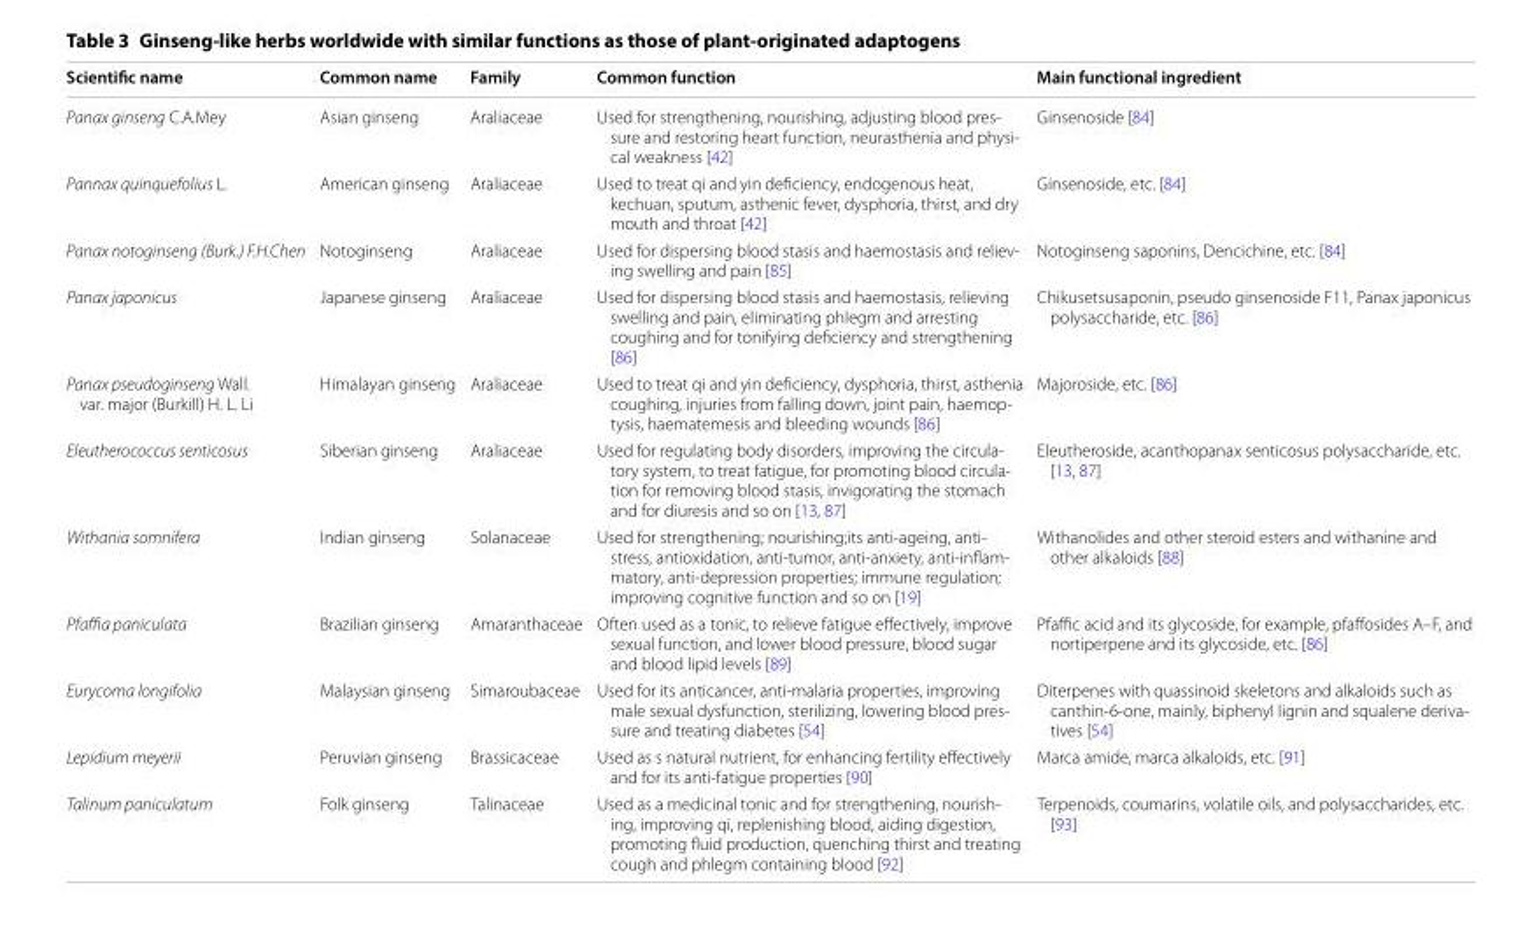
<table><thead><tr><td>Scientific name</td><td>Common name</td><td>Family</td><td>Common function</td><td>Main functional ingredient</td></tr></thead><tbody><tr><td>Panax ginseng C.A.Mey</td><td>Asian ginseng</td><td>Araliaceae</td><td>Used for strengthening, nourishing, adjusting blood pres‑ sure and restoring heart function, neurasthenia and physi‑ cal weakness [42]</td><td>Ginsenoside [84]</td></tr><tr><td>Pannax quinquefolius L.</td><td>American ginseng</td><td>Araliaceae</td><td>Used to treat qi and yin deficiency, endogenous heat, kechuan, sputum, asthenic fever, dysphoria, thirst, and dry mouth and throat [42]</td><td>Ginsenoside, etc. [84]</td></tr><tr><td>Panax notoginseng (Burk.) F.H.Chen</td><td>Notoginseng</td><td>Araliaceae</td><td>Used for dispersing blood stasis and haemostasis and reliev‑ ing swelling and pain [85]</td><td>Notoginseng saponins, Dencichine, etc. [84]</td></tr><tr><td>Panax japonicus</td><td>Japanese ginseng</td><td>Araliaceae</td><td>Used for dispersing blood stasis and haemostasis, relieving swelling and pain, eliminating phlegm and arresting coughing and for tonifying deficiency and strengthening [86]</td><td>Chikusetsusaponin, pseudo ginsenoside F11, Panax japonicus polysaccharide, etc. [86]</td></tr><tr><td>Panax pseudoginseng Wall. var. major (Burkill) H. L. Li</td><td>Himalayan ginseng</td><td>Araliaceae</td><td>Used to treat qi and yin deficiency, dysphoria, thirst, asthenia coughing, injuries from falling down, joint pain, haemop‑ tysis, haematemesis and bleeding wounds [86]</td><td>Majoroside, etc. [86]</td></tr><tr><td>Eleutherococcus senticosus</td><td>Siberian ginseng</td><td>Araliaceae</td><td>Used for regulating body disorders, improving the circula‑ tory system, to treat fatigue, for promoting blood circula‑ tion for removing blood stasis, invigorating the stomach and for diuresis and so on [13, 87]</td><td>Eleutheroside, acanthopanax senticosus polysaccharide, etc. [13, 87]</td></tr><tr><td>Withania somnifera</td><td>Indian ginseng</td><td>Solanaceae</td><td>Used for strengthening; nourishing;its anti‑ageing, anti‑ stress, antioxidation, anti‑tumor, anti‑anxiety, anti‑inflam‑ matory, anti‑depression properties; immune regulation; improving cognitive function and so on [19]</td><td>Withanolides and other steroid esters and withanine and other alkaloids [88]</td></tr><tr><td>Pfaffia paniculata</td><td>Brazilian ginseng</td><td>Amaranthaceae</td><td>Often used as a tonic, to relieve fatigue effectively, improve sexual function, and lower blood pressure, blood sugar and blood lipid levels [89]</td><td>Pfaffic acid and its glycoside, for example, pfaffosides A–F, and nortiperpene and its glycoside, etc. [86]</td></tr><tr><td>Eurycoma longifolia</td><td>Malaysian ginseng</td><td>Simaroubaceae</td><td>Used for its anticancer, anti‑malaria properties, improving male sexual dysfunction, sterilizing, lowering blood pres‑ sure and treating diabetes [54]</td><td>Diterpenes with quassinoid skeletons and alkaloids such as canthin‑6‑one, mainly, biphenyl lignin and squalene deriva‑ tives [54]</td></tr><tr><td>Lepidium meyerii</td><td>Peruvian ginseng</td><td>Brassicaceae</td><td>Used as s natural nutrient, for enhancing fertility effectively and for its anti‑fatigue properties [90]</td><td>Marca amide, marca alkaloids, etc. [91]</td></tr><tr><td>Talinum paniculatum</td><td>Folk ginseng</td><td>Talinaceae</td><td>Used as a medicinal tonic and for strengthening, nourish‑ ing, improving qi, replenishing blood, aiding digestion, promoting fluid production, quenching thirst and treating cough and phlegm containing blood [92]</td><td>Terpenoids, coumarins, volatile oils, and polysaccharides, etc. [93]</td></tr></tbody></table>